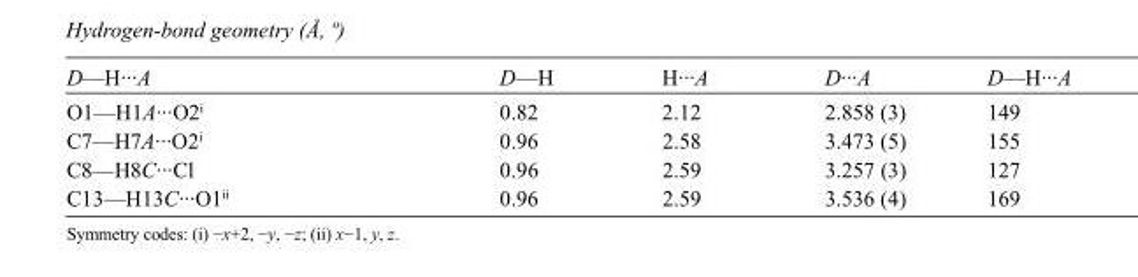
<table><tbody><tr><td>D—H···A</td><td>D—H</td><td>H···A</td><td>D···A</td><td>D—H···A</td></tr><tr><td>O1—H1A···O2<sup>i</sup></td><td>0.82</td><td>2.12</td><td>2.858 (3)</td><td>149</td></tr><tr><td>C7—H7A···O2<sup>i</sup></td><td>0.96</td><td>2.58</td><td>3.473 (5)</td><td>155</td></tr><tr><td>C8—H8C···Cl</td><td>0.96</td><td>2.59</td><td>3.257 (3)</td><td>127</td></tr><tr><td>C13—H13C···O1<sup>ii</sup></td><td>0.96</td><td>2.59</td><td>3.536 (4)</td><td>169</td></tr></tbody></table>